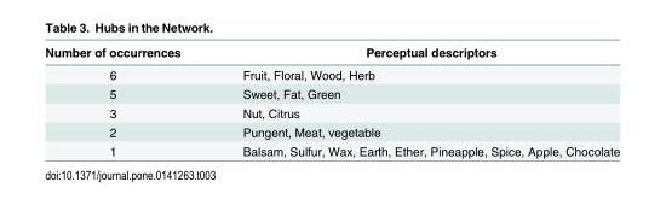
<table><thead><tr><td>Number of occurrences</td><td>Perceptual descriptors</td></tr></thead><tbody><tr><td>6</td><td>Fruit, Floral, Wood, Herb</td></tr><tr><td>5</td><td>Sweet, Fat, Green</td></tr><tr><td>3</td><td>Nut, Citrus</td></tr><tr><td>2</td><td>Pungent, Meat, vegetable</td></tr><tr><td>1</td><td>Balsam, Sulfur, Wax, Earth, Ether, Pineapple, Spice, Apple, Chocolate</td></tr></tbody></table>